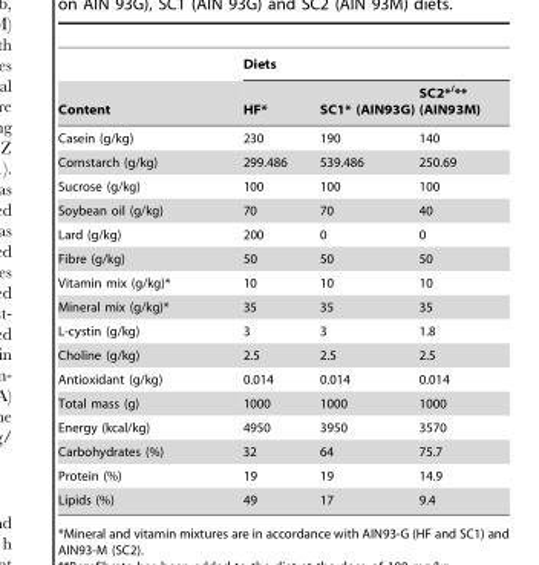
<table><thead><tr><td rowspan="2">Content</td><td colspan="3">Diets</td></tr><tr><td>HF*</td><td>SC1* (AIN93G)</td><td>SC2*<sup>/</sup>** (AIN93M)</td></tr></thead><tbody><tr><td>Casein (g/kg)</td><td>230</td><td>190</td><td>140</td></tr><tr><td>Cornstarch (g/kg)</td><td>299.486</td><td>539.486</td><td>250.69</td></tr><tr><td>Sucrose (g/kg)</td><td>100</td><td>100</td><td>100</td></tr><tr><td>Soybean oil (g/kg)</td><td>70</td><td>70</td><td>40</td></tr><tr><td>Lard (g/kg)</td><td>200</td><td>0</td><td>0</td></tr><tr><td>Fibre (g/kg)</td><td>50</td><td>50</td><td>50</td></tr><tr><td>Vitamin mix (g/kg)*</td><td>10</td><td>10</td><td>10</td></tr><tr><td>Mineral mix (g/kg)*</td><td>35</td><td>35</td><td>35</td></tr><tr><td>L-cystin (g/kg)</td><td>3</td><td>3</td><td>1.8</td></tr><tr><td>Choline (g/kg)</td><td>2.5</td><td>2.5</td><td>2.5</td></tr><tr><td>Antioxidant (g/kg)</td><td>0.014</td><td>0.014</td><td>0.014</td></tr><tr><td>Total mass (g)</td><td>1000</td><td>1000</td><td>1000</td></tr><tr><td>Energy (kcal/kg)</td><td>4950</td><td>3950</td><td>3570</td></tr><tr><td>Carbohydrates (%)</td><td>32</td><td>64</td><td>75.7</td></tr><tr><td>Protein (%)</td><td>19</td><td>19</td><td>14.9</td></tr><tr><td>Lipids (%)</td><td>49</td><td>17</td><td>9.4</td></tr></tbody></table>